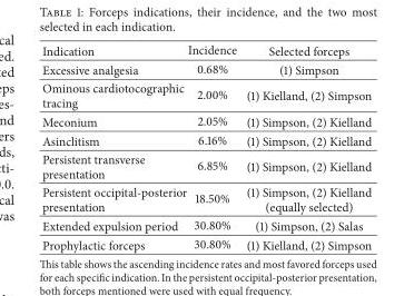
<table><thead><tr><td>Indication</td><td>Incidence</td><td>Selected forceps</td></tr></thead><tbody><tr><td>Excessive analgesia</td><td>0.68%</td><td>(1) Simpson</td></tr><tr><td>Ominous cardiotocographic tracing</td><td>2.00%</td><td>(1) Kielland, (2) Simpson</td></tr><tr><td>Meconium</td><td>2.05%</td><td>(1) Simpson, (2) Kielland</td></tr><tr><td>Asinclitism</td><td>6.16%</td><td>(1) Simpson, (2) Kielland</td></tr><tr><td>Persistent transverse presentation</td><td>6.85%</td><td>(1) Simpson, (2) Kielland</td></tr><tr><td>Persistent occipital-posterior presentation</td><td>18.50%</td><td>(1) Simpson, (2) Kielland (equally selected)</td></tr><tr><td>Extended expulsion period</td><td>30.80%</td><td>(1) Simpson, (2) Salas</td></tr><tr><td>Prophylactic forceps</td><td>30.80%</td><td>(1) Kielland, (2) Simpson</td></tr></tbody></table>